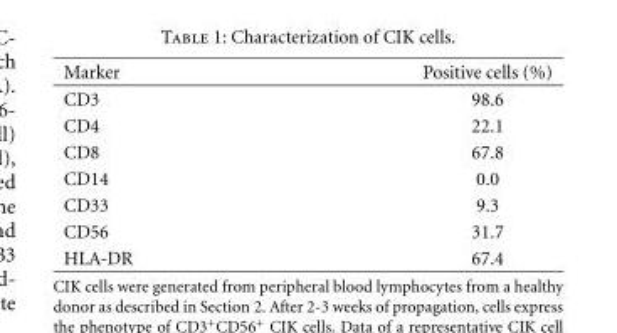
<table><thead><tr><td>Marker</td><td>Positive cells (%)</td></tr></thead><tbody><tr><td>CD3</td><td>98.6</td></tr><tr><td>CD4</td><td>22.1</td></tr><tr><td>CD8</td><td>67.8</td></tr><tr><td>CD14</td><td>0.0</td></tr><tr><td>CD33</td><td>9.3</td></tr><tr><td>CD56</td><td>31.7</td></tr><tr><td>HLA-DR</td><td>67.4</td></tr></tbody></table>